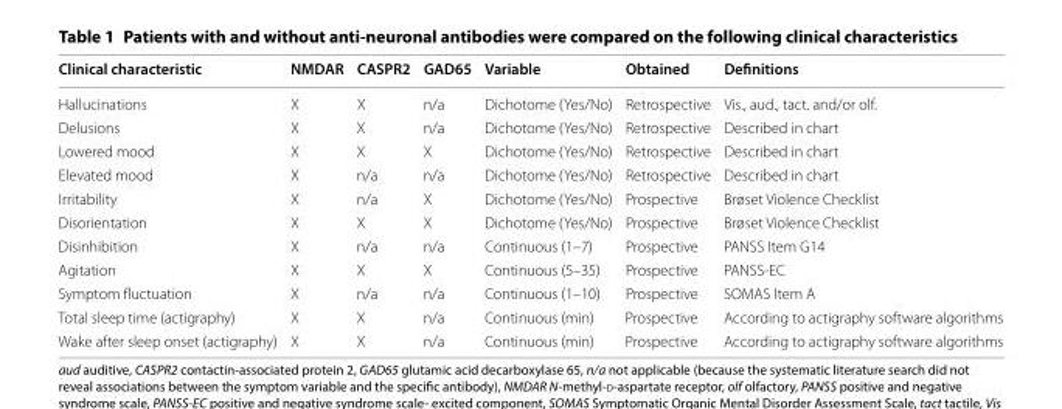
<table><thead><tr><td>Clinical characteristic</td><td>NMDAR</td><td>CASPR2</td><td>GAD65</td><td>Variable</td><td>Obtained</td><td>Definitions</td></tr></thead><tbody><tr><td>Hallucinations</td><td>X</td><td>X</td><td>n/a</td><td>Dichotome (Yes/No)</td><td>Retrospective</td><td>Vis., aud., tact. and/or olf.</td></tr><tr><td>Delusions</td><td>X</td><td>X</td><td>n/a</td><td>Dichotome (Yes/No)</td><td>Retrospective</td><td>Described in chart</td></tr><tr><td>Lowered mood</td><td>X</td><td>X</td><td>X</td><td>Dichotome (Yes/No)</td><td>Retrospective</td><td>Described in chart</td></tr><tr><td>Elevated mood</td><td>X</td><td>n/a</td><td>n/a</td><td>Dichotome (Yes/No)</td><td>Retrospective</td><td>Described in chart</td></tr><tr><td>Irritability</td><td>X</td><td>n/a</td><td>X</td><td>Dichotome (Yes/No)</td><td>Prospective</td><td>Brøset Violence Checklist</td></tr><tr><td>Disorientation</td><td>X</td><td>X</td><td>X</td><td>Dichotome (Yes/No)</td><td>Prospective</td><td>Brøset Violence Checklist</td></tr><tr><td>Disinhibition</td><td>X</td><td>n/a</td><td>n/a</td><td>Continuous (1–7)</td><td>Prospective</td><td>PANSS Item G14</td></tr><tr><td>Agitation</td><td>X</td><td>X</td><td>X</td><td>Continuous (5–35)</td><td>Prospective</td><td>PANSS‑EC</td></tr><tr><td>Symptom fluctuation</td><td>X</td><td>n/a</td><td>n/a</td><td>Continuous (1–10)</td><td>Prospective</td><td>SOMAS Item A</td></tr><tr><td>Total sleep time (actigraphy)</td><td>X</td><td>X</td><td>n/a</td><td>Continuous (min)</td><td>Prospective</td><td>According to actigraphy software algorithms</td></tr><tr><td>Wake after sleep onset (actigraphy)</td><td>X</td><td>X</td><td>n/a</td><td>Continuous (min)</td><td>Prospective</td><td>According to actigraphy software algorithms</td></tr></tbody></table>